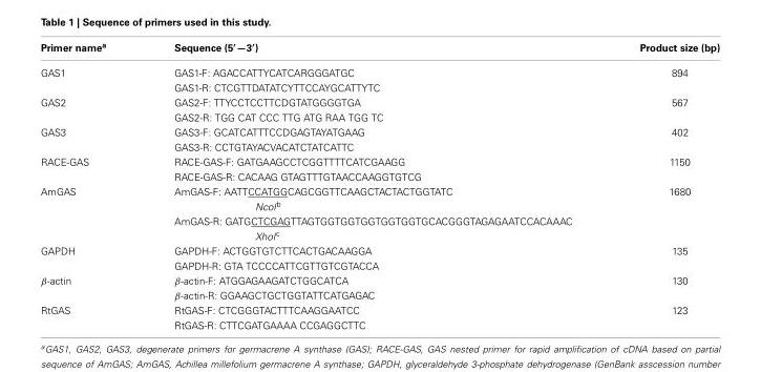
<table><thead><tr><td>Primer name<sup>a</sup></td><td>Sequence (5′—3′)</td><td>Product size (bp)</td></tr></thead><tbody><tr><td rowspan="2">GAS1</td><td>GAS1-F: AGACCATTYCATCARGGGATGC</td><td>894</td></tr><tr><td>GAS1-R: CTCGTTDATATCYTTCCAYGCATTYTC</td><td></td></tr><tr><td rowspan="2">GAS2</td><td>GAS2-F: TTYCCTCCTTCDGTATGGGGTGA</td><td>567</td></tr><tr><td>GAS2-R: TGG CAT CCC TTG ATG RAA TGG TC</td><td></td></tr><tr><td rowspan="2">GAS3</td><td>GAS3-F: GCATCATTTCCDGAGTAYATGAAG</td><td>402</td></tr><tr><td>GAS3-R: CCTGTAYACVACATCTATCATTC</td><td></td></tr><tr><td rowspan="2">RACE-GAS</td><td>RACE-GAS-F: GATGAAGCCTCGGTTTTCATCGAAGG</td><td>1150</td></tr><tr><td>RACE-GAS-R: CACAAG GTAGTTTGTAACCAAGGTGTCG</td><td></td></tr><tr><td rowspan="4">AmGAS</td><td>AmGAS-F: AATTCCATGGCAGCGGTTCAAGCTACTACTGGTATC</td><td>1680</td></tr><tr><td>NcoI<sup>b</sup></td><td></td></tr><tr><td>AmGAS-R: GATGCTCGAGTTAGTGGTGGTGGTGGTGGTGCACGGGTAGAGAATCCACAAAC</td><td></td></tr><tr><td>XhoI<sup>c</sup></td><td></td></tr><tr><td rowspan="2">GAPDH</td><td>GAPDH-F: ACTGGTGTCTTCACTGACAAGGA</td><td>135</td></tr><tr><td>GAPDH-R: GTA TCCCCATTCGTTGTCGTACCA</td><td></td></tr><tr><td rowspan="2">β-actin</td><td>β-actin-F: ATGGAGAAGATCTGGCATCA</td><td>130</td></tr><tr><td>β-actin-R: GGAAGCTGCTGGTATTCATGAGAC</td><td></td></tr><tr><td rowspan="2">RtGAS</td><td>RtGAS-F: CTCGGGTACTTTCAAGGAATCC</td><td>123</td></tr><tr><td>RtGAS-R: CTTCGATGAAAA CCGAGGCTTC</td><td></td></tr></tbody></table>